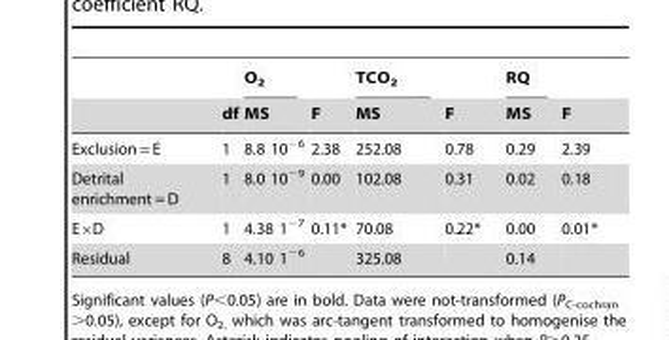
<table><thead><tr><td rowspan="2"></td><td rowspan="2">df</td><td rowspan="2">O<sub>2</sub> MS</td><td rowspan="2">F</td><td rowspan="2">TCO<sub>2</sub> MS</td><td rowspan="2">F</td><td rowspan="2">RQ MS</td><td rowspan="2">F</td></tr><tr></tr></thead><tbody><tr><td>Exclusion = E</td><td>1</td><td>8.8 10<sup>−6</sup></td><td>2.38</td><td>252.08</td><td>0.78</td><td>0.29</td><td>2.39</td></tr><tr><td>Detrital enrichment = D</td><td>1</td><td>8.0 10<sup>−9</sup></td><td>0.00</td><td>102.08</td><td>0.31</td><td>0.02</td><td>0.18</td></tr><tr><td>E×D</td><td>1</td><td>4.38 1<sup>−7</sup></td><td>0.11*</td><td>70.08</td><td>0.22*</td><td>0.00</td><td>0.01*</td></tr><tr><td>Residual</td><td>8</td><td>4.10 1<sup>−6</sup></td><td></td><td>325.08</td><td></td><td>0.14</td><td></td></tr></tbody></table>